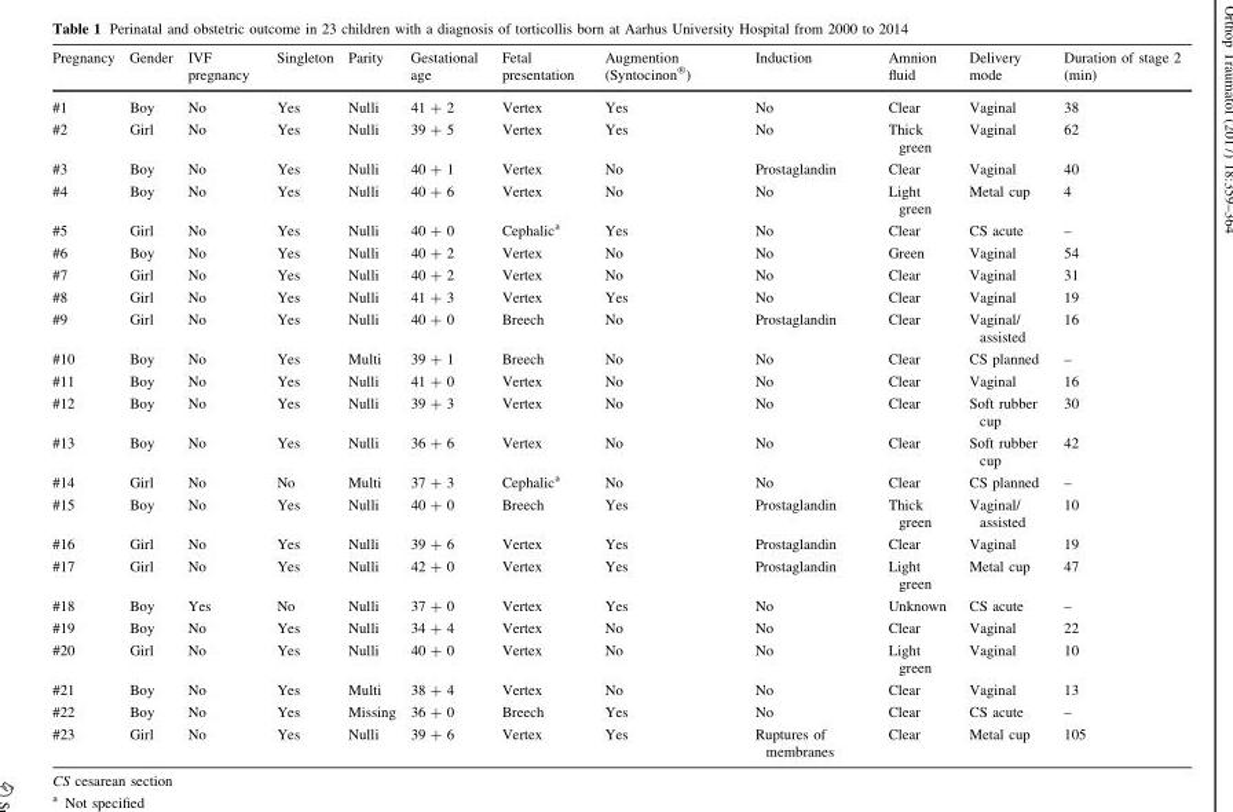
<table><thead><tr><td>Pregnancy</td><td>Gender</td><td>IVF pregnancy</td><td>Singleton</td><td>Parity</td><td>Gestational age</td><td>Fetal presentation</td><td>Augmention (Syntocinon<sup>®</sup>)</td><td>Induction</td><td>Amnion fluid</td><td>Delivery mode</td><td>Duration of stage 2 (min)</td></tr></thead><tbody><tr><td>#1</td><td>Boy</td><td>No</td><td>Yes</td><td>Nulli</td><td>41 + 2</td><td>Vertex</td><td>Yes</td><td>No</td><td>Clear</td><td>Vaginal</td><td>38</td></tr><tr><td>#2</td><td>Girl</td><td>No</td><td>Yes</td><td>Nulli</td><td>39 + 5</td><td>Vertex</td><td>Yes</td><td>No</td><td>Thick green</td><td>Vaginal</td><td>62</td></tr><tr><td>#3</td><td>Boy</td><td>No</td><td>Yes</td><td>Nulli</td><td>40 + 1</td><td>Vertex</td><td>No</td><td>Prostaglandin</td><td>Clear</td><td>Vaginal</td><td>40</td></tr><tr><td>#4</td><td>Boy</td><td>No</td><td>Yes</td><td>Nulli</td><td>40 + 6</td><td>Vertex</td><td>No</td><td>No</td><td>Light green</td><td>Metal cup</td><td>4</td></tr><tr><td>#5</td><td>Girl</td><td>No</td><td>Yes</td><td>Nulli</td><td>40 + 0</td><td>Cephalic<sup>a</sup></td><td>Yes</td><td>No</td><td>Clear</td><td>CS acute</td><td>–</td></tr><tr><td>#6</td><td>Boy</td><td>No</td><td>Yes</td><td>Nulli</td><td>40 + 2</td><td>Vertex</td><td>No</td><td>No</td><td>Green</td><td>Vaginal</td><td>54</td></tr><tr><td>#7</td><td>Girl</td><td>No</td><td>Yes</td><td>Nulli</td><td>40 + 2</td><td>Vertex</td><td>No</td><td>No</td><td>Clear</td><td>Vaginal</td><td>31</td></tr><tr><td>#8</td><td>Girl</td><td>No</td><td>Yes</td><td>Nulli</td><td>41 + 3</td><td>Vertex</td><td>Yes</td><td>No</td><td>Clear</td><td>Vaginal</td><td>19</td></tr><tr><td>#9</td><td>Girl</td><td>No</td><td>Yes</td><td>Nulli</td><td>40 + 0</td><td>Breech</td><td>No</td><td>Prostaglandin</td><td>Clear</td><td>Vaginal/ assisted</td><td>16</td></tr><tr><td>#10</td><td>Boy</td><td>No</td><td>Yes</td><td>Multi</td><td>39 + 1</td><td>Breech</td><td>No</td><td>No</td><td>Clear</td><td>CS planned</td><td>–</td></tr><tr><td>#11</td><td>Boy</td><td>No</td><td>Yes</td><td>Nulli</td><td>41 + 0</td><td>Vertex</td><td>No</td><td>No</td><td>Clear</td><td>Vaginal</td><td>16</td></tr><tr><td>#12</td><td>Boy</td><td>No</td><td>Yes</td><td>Nulli</td><td>39 + 3</td><td>Vertex</td><td>No</td><td>No</td><td>Clear</td><td>Soft rubber cup</td><td>30</td></tr><tr><td>#13</td><td>Boy</td><td>No</td><td>Yes</td><td>Nulli</td><td>36 + 6</td><td>Vertex</td><td>No</td><td>No</td><td>Clear</td><td>Soft rubber cup</td><td>42</td></tr><tr><td>#14</td><td>Girl</td><td>No</td><td>No</td><td>Multi</td><td>37 + 3</td><td>Cephalic<sup>a</sup></td><td>No</td><td>No</td><td>Clear</td><td>CS planned</td><td>–</td></tr><tr><td>#15</td><td>Boy</td><td>No</td><td>Yes</td><td>Nulli</td><td>40 + 0</td><td>Breech</td><td>Yes</td><td>Prostaglandin</td><td>Thick green</td><td>Vaginal/ assisted</td><td>10</td></tr><tr><td>#16</td><td>Girl</td><td>No</td><td>Yes</td><td>Nulli</td><td>39 + 6</td><td>Vertex</td><td>Yes</td><td>Prostaglandin</td><td>Clear</td><td>Vaginal</td><td>19</td></tr><tr><td>#17</td><td>Girl</td><td>No</td><td>Yes</td><td>Nulli</td><td>42 + 0</td><td>Vertex</td><td>Yes</td><td>Prostaglandin</td><td>Light green</td><td>Metal cup</td><td>47</td></tr><tr><td>#18</td><td>Boy</td><td>Yes</td><td>No</td><td>Nulli</td><td>37 + 0</td><td>Vertex</td><td>Yes</td><td>No</td><td>Unknown</td><td>CS acute</td><td>–</td></tr><tr><td>#19</td><td>Boy</td><td>No</td><td>Yes</td><td>Nulli</td><td>34 + 4</td><td>Vertex</td><td>No</td><td>No</td><td>Clear</td><td>Vaginal</td><td>22</td></tr><tr><td>#20</td><td>Girl</td><td>No</td><td>Yes</td><td>Nulli</td><td>40 + 0</td><td>Vertex</td><td>No</td><td>No</td><td>Light green</td><td>Vaginal</td><td>10</td></tr><tr><td>#21</td><td>Boy</td><td>No</td><td>Yes</td><td>Multi</td><td>38 + 4</td><td>Vertex</td><td>No</td><td>No</td><td>Clear</td><td>Vaginal</td><td>13</td></tr><tr><td>#22</td><td>Boy</td><td>No</td><td>Yes</td><td>Missing</td><td>36 + 0</td><td>Breech</td><td>Yes</td><td>No</td><td>Clear</td><td>CS acute</td><td>–</td></tr><tr><td>#23</td><td>Girl</td><td>No</td><td>Yes</td><td>Nulli</td><td>39 + 6</td><td>Vertex</td><td>Yes</td><td>Ruptures of membranes</td><td>Clear</td><td>Metal cup</td><td>105</td></tr></tbody></table>